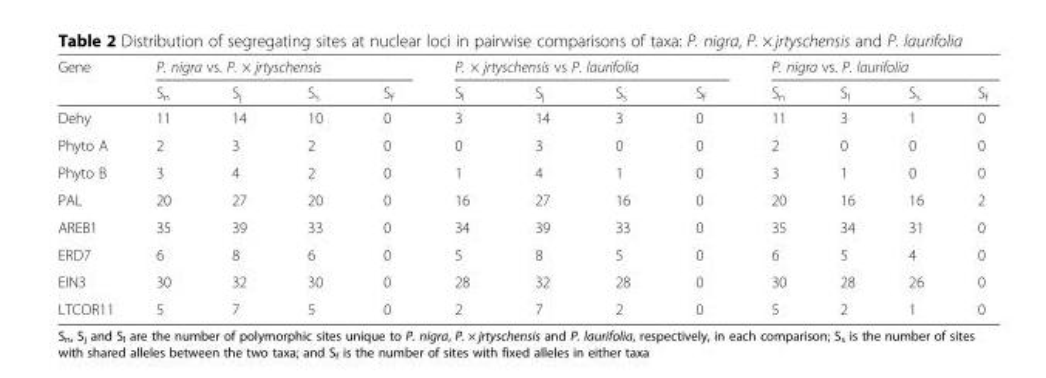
<table><thead><tr><td rowspan="2">Gene</td><td colspan="4">P. nigra vs. P. × jrtyschensis</td><td colspan="4">P. × jrtyschensis vs P. laurifolia</td><td colspan="4">P. nigra vs. P. laurifolia</td></tr><tr><td>S<sub>n</sub></td><td>S<sub>j</sub></td><td>S<sub>s</sub></td><td>S<sub>f</sub></td><td>S<sub>l</sub></td><td>S<sub>j</sub></td><td>S<sub>s</sub></td><td>S<sub>f</sub></td><td>S<sub>n</sub></td><td>S<sub>l</sub></td><td>S<sub>s</sub></td><td>S<sub>f</sub></td></tr></thead><tbody><tr><td>Dehy</td><td>11</td><td>14</td><td>10</td><td>0</td><td>3</td><td>14</td><td>3</td><td>0</td><td>11</td><td>3</td><td>1</td><td>0</td></tr><tr><td>Phyto A</td><td>2</td><td>3</td><td>2</td><td>0</td><td>0</td><td>3</td><td>0</td><td>0</td><td>2</td><td>0</td><td>0</td><td>0</td></tr><tr><td>Phyto B</td><td>3</td><td>4</td><td>2</td><td>0</td><td>1</td><td>4</td><td>1</td><td>0</td><td>3</td><td>1</td><td>0</td><td>0</td></tr><tr><td>PAL</td><td>20</td><td>27</td><td>20</td><td>0</td><td>16</td><td>27</td><td>16</td><td>0</td><td>20</td><td>16</td><td>16</td><td>2</td></tr><tr><td>AREB1</td><td>35</td><td>39</td><td>33</td><td>0</td><td>34</td><td>39</td><td>33</td><td>0</td><td>35</td><td>34</td><td>31</td><td>0</td></tr><tr><td>ERD7</td><td>6</td><td>8</td><td>6</td><td>0</td><td>5</td><td>8</td><td>5</td><td>0</td><td>6</td><td>5</td><td>4</td><td>0</td></tr><tr><td>EIN3</td><td>30</td><td>32</td><td>30</td><td>0</td><td>28</td><td>32</td><td>28</td><td>0</td><td>30</td><td>28</td><td>26</td><td>0</td></tr><tr><td>LTCOR11</td><td>5</td><td>7</td><td>5</td><td>0</td><td>2</td><td>7</td><td>2</td><td>0</td><td>5</td><td>2</td><td>1</td><td>0</td></tr></tbody></table>